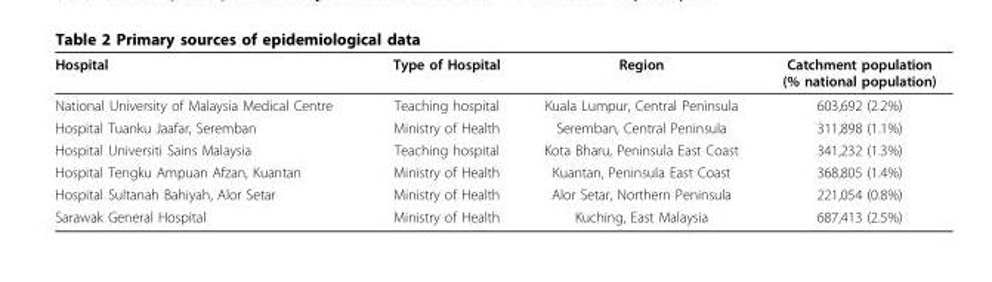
<table><thead><tr><td>Hospital</td><td>Type of Hospital</td><td>Region</td><td>Catchment population (% national population)</td></tr></thead><tbody><tr><td>National University of Malaysia Medical Centre</td><td>Teaching hospital</td><td>Kuala Lumpur, Central Peninsula</td><td>603,692 (2.2%)</td></tr><tr><td>Hospital Tuanku Jaafar, Seremban</td><td>Ministry of Health</td><td>Seremban, Central Peninsula</td><td>311,898 (1.1%)</td></tr><tr><td>Hospital Universiti Sains Malaysia</td><td>Teaching hospital</td><td>Kota Bharu, Peninsula East Coast</td><td>341,232 (1.3%)</td></tr><tr><td>Hospital Tengku Ampuan Afzan, Kuantan</td><td>Ministry of Health</td><td>Kuantan, Peninsula East Coast</td><td>368,805 (1.4%)</td></tr><tr><td>Hospital Sultanah Bahiyah, Alor Setar</td><td>Ministry of Health</td><td>Alor Setar, Northern Peninsula</td><td>221,054 (0.8%)</td></tr><tr><td>Sarawak General Hospital</td><td>Ministry of Health</td><td>Kuching, East Malaysia</td><td>687,413 (2.5%)</td></tr></tbody></table>